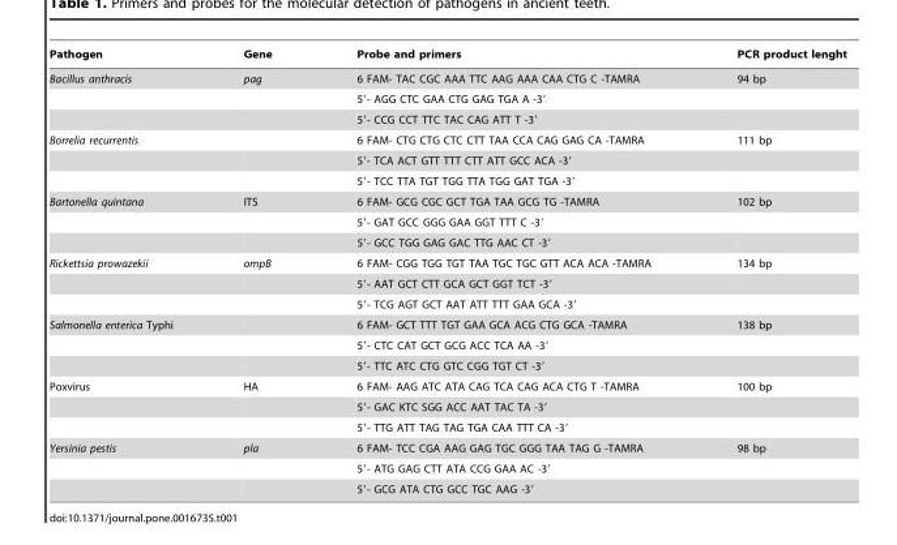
<table><thead><tr><td>Pathogen</td><td>Gene</td><td>Probe and primers</td><td>PCR product lenght</td></tr></thead><tbody><tr><td rowspan="3">Bacillus anthracis</td><td>pag</td><td>6 FAM- TAC CGC AAA TTC AAG AAA CAA CTG C -TAMRA</td><td>94 bp</td></tr><tr><td></td><td>5′- AGG CTC GAA CTG GAG TGA A -3′</td><td></td></tr><tr><td></td><td>5′- CCG CCT TTC TAC CAG ATT T -3′</td><td></td></tr><tr><td rowspan="3">Borrelia recurrentis</td><td></td><td>6 FAM- CTG CTG CTC CTT TAA CCA CAG GAG CA -TAMRA</td><td>111 bp</td></tr><tr><td></td><td>5′- TCA ACT GTT TTT CTT ATT GCC ACA -3′</td><td></td></tr><tr><td></td><td>5′- TCC TTA TGT TGG TTA TGG GAT TGA -3′</td><td></td></tr><tr><td rowspan="3">Bartonella quintana</td><td>ITS</td><td>6 FAM- GCG CGC GCT TGA TAA GCG TG -TAMRA</td><td>102 bp</td></tr><tr><td></td><td>5′- GAT GCC GGG GAA GGT TTT C -3′</td><td></td></tr><tr><td></td><td>5′- GCC TGG GAG GAC TTG AAC CT -3′</td><td></td></tr><tr><td rowspan="3">Rickettsia prowazekii</td><td>ompB</td><td>6 FAM- CGG TGG TGT TAA TGC TGC GTT ACA ACA -TAMRA</td><td>134 bp</td></tr><tr><td></td><td>5′- AAT GCT CTT GCA GCT GGT TCT -3′</td><td></td></tr><tr><td></td><td>5′- TCG AGT GCT AAT ATT TTT GAA GCA -3′</td><td></td></tr><tr><td rowspan="3">Salmonella enterica Typhi</td><td></td><td>6 FAM- GCT TTT TGT GAA GCA ACG CTG GCA -TAMRA</td><td>138 bp</td></tr><tr><td></td><td>5′- CTC CAT GCT GCG ACC TCA AA -3′</td><td></td></tr><tr><td></td><td>5′- TTC ATC CTG GTC CGG TGT CT -3′</td><td></td></tr><tr><td rowspan="3">Poxvirus</td><td>HA</td><td>6 FAM- AAG ATC ATA CAG TCA CAG ACA CTG T -TAMRA</td><td>100 bp</td></tr><tr><td></td><td>5′- GAC KTC SGG ACC AAT TAC TA -3′</td><td></td></tr><tr><td></td><td>5′- TTG ATT TAG TAG TGA CAA TTT CA -3′</td><td></td></tr><tr><td rowspan="3">Yersinia pestis</td><td>pla</td><td>6 FAM- TCC CGA AAG GAG TGC GGG TAA TAG G -TAMRA</td><td>98 bp</td></tr><tr><td></td><td>5′- ATG GAG CTT ATA CCG GAA AC -3′</td><td></td></tr><tr><td></td><td>5′- GCG ATA CTG GCC TGC AAG -3′</td><td></td></tr></tbody></table>